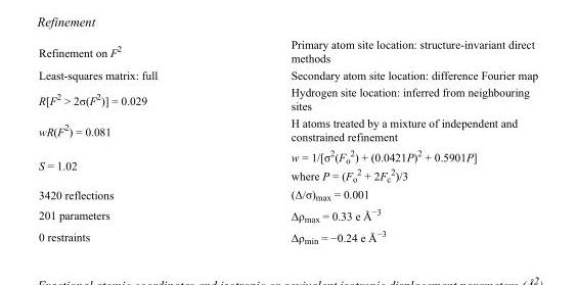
<table><tbody><tr><td>Refinement on F<sup>2</sup></td><td>Primary atom site location: structure-invariant direct methods</td></tr><tr><td>Least-squares matrix: full</td><td>Secondary atom site location: difference Fourier map</td></tr><tr><td>R[F<sup>2</sup> &gt; 2σ(F<sup>2</sup>)] = 0.029</td><td>Hydrogen site location: inferred from neighbouring sites</td></tr><tr><td>wR(F<sup>2</sup>) = 0.081</td><td>H atoms treated by a mixture of independent and constrained refinement</td></tr><tr><td>S = 1.02</td><td>w = 1/[σ<sup>2</sup>(F<sub>o</sub> <sup>2</sup>) + (0.0421P)<sup>2</sup> + 0.5901P] where P = (F<sub>o</sub> <sup>2</sup> + 2F<sub>c</sub> <sup>2</sup>)/3</td></tr><tr><td>3420 reflections</td><td>(Δ/σ)<sub>max</sub> = 0.001</td></tr><tr><td>201 parameters</td><td>Δρ<sub>max</sub> = 0.33 e Å<sup>−3</sup></td></tr><tr><td>0 restraints</td><td>Δρ<sub>min</sub> = −0.24 e Å<sup>−3</sup></td></tr></tbody></table>